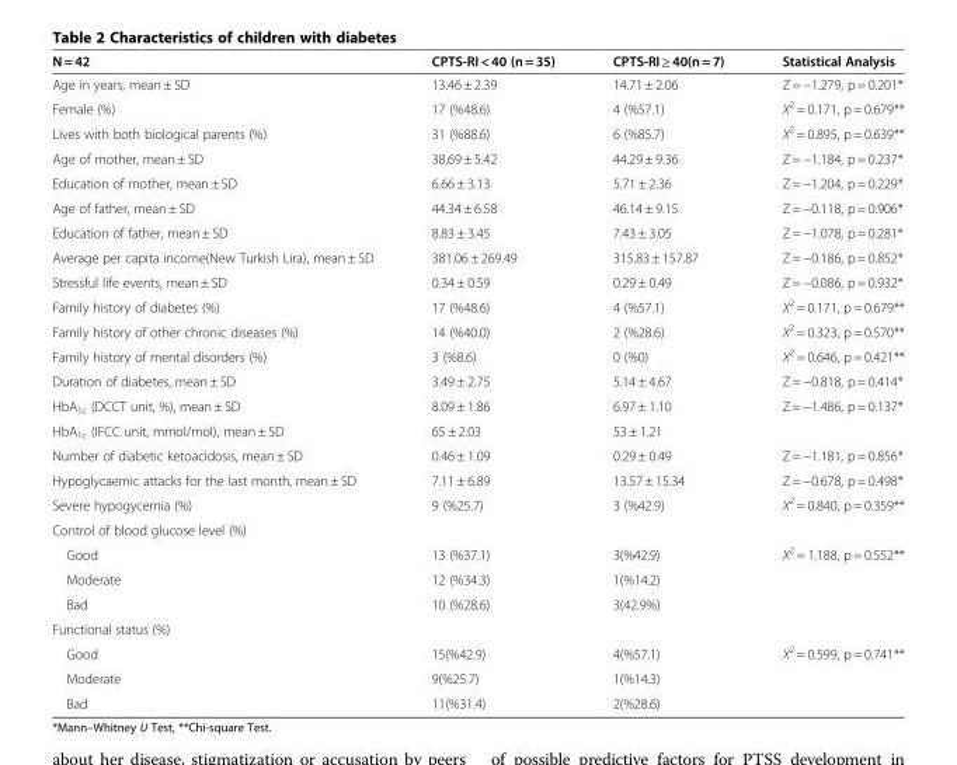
<table><thead><tr><td>N = 42</td><td>CPTS-RI &lt; 40 (n = 35)</td><td>CPTS-RI ≥ 40(n = 7)</td><td>Statistical Analysis</td></tr></thead><tbody><tr><td>Age in years, mean ± SD</td><td>13.46 ± 2.39</td><td>14.71 ± 2.06</td><td>Z = −1.279, p = 0.201*</td></tr><tr><td>Female (%)</td><td>17 (%48.6)</td><td>4 (%57.1)</td><td>X<sup>2</sup> = 0.171, p = 0.679**</td></tr><tr><td>Lives with both biological parents (%)</td><td>31 (%88.6)</td><td>6 (%85.7)</td><td>X<sup>2</sup> = 0.895, p = 0.639**</td></tr><tr><td>Age of mother, mean ± SD</td><td>38.69 ± 5.42</td><td>44.29 ± 9.36</td><td>Z = −1.184, p = 0.237*</td></tr><tr><td>Education of mother, mean ± SD</td><td>6.66 ± 3.13</td><td>5.71 ± 2.36</td><td>Z = −1.204, p = 0.229*</td></tr><tr><td>Age of father, mean ± SD</td><td>44.34 ± 6.58</td><td>46.14 ± 9.15</td><td>Z = −0.118, p = 0.906*</td></tr><tr><td>Education of father, mean ± SD</td><td>8.83 ± 3.45</td><td>7.43 ± 3.05</td><td>Z = −1.078, p = 0.281*</td></tr><tr><td>Average per capita income(New Turkish Lira), mean ± SD</td><td>381.06 ± 269.49</td><td>315.83 ± 157.87</td><td>Z = −0.186, p = 0.852*</td></tr><tr><td>Stressful life events, mean ± SD</td><td>0.34 ± 0.59</td><td>0.29 ± 0.49</td><td>Z = −0.086, p = 0.932*</td></tr><tr><td>Family history of diabetes (%)</td><td>17 (%48.6)</td><td>4 (%57.1)</td><td>X<sup>2</sup> = 0.171, p = 0.679**</td></tr><tr><td>Family history of other chronic diseases (%)</td><td>14 (%40.0)</td><td>2 (%28.6)</td><td>X<sup>2</sup> = 0.323, p = 0.570**</td></tr><tr><td>Family history of mental disorders (%)</td><td>3 (%8.6)</td><td>0 (%0)</td><td>X<sup>2</sup> = 0.646, p = 0.421**</td></tr><tr><td>Duration of diabetes, mean ± SD</td><td>3.49 ± 2.75</td><td>5.14 ± 4.67</td><td>Z = −0.818, p = 0.414*</td></tr><tr><td>HbA<sub>1c</sub> (DCCT unit, %), mean ± SD</td><td>8.09 ± 1.86</td><td>6.97 ± 1.10</td><td rowspan="2">Z = −1.486, p = 0.137*</td></tr><tr><td>HbA<sub>1c</sub> (IFCC unit, mmol/mol), mean ± SD</td><td>65 ± 2.03</td><td>53 ± 1.21</td></tr><tr><td>Number of diabetic ketoacidosis, mean ± SD</td><td>0.46 ± 1.09</td><td>0.29 ± 0.49</td><td>Z = −1.181, p = 0.856*</td></tr><tr><td>Hypoglycaemic attacks for the last month, mean ± SD</td><td>7.11 ± 6.89</td><td>13.57 ± 15.34</td><td>Z = −0.678, p = 0.498*</td></tr><tr><td>Severe hypogycemia (%)</td><td>9 (%25.7)</td><td>3 (%42.9)</td><td>X<sup>2</sup> = 0.840, p = 0.359**</td></tr><tr><td colspan="4">Control of blood glucose level (%)</td></tr><tr><td>Good</td><td>13 (%37.1)</td><td>3(%42.9)</td><td>X<sup>2</sup> = 1.188, p = 0.552**</td></tr><tr><td>Moderate</td><td>12 (%34.3)</td><td>1(%14.2)</td><td></td></tr><tr><td>Bad</td><td>10 (%28.6)</td><td>3(42.9%)</td><td></td></tr><tr><td colspan="4">Functional status (%)</td></tr><tr><td>Good</td><td>15(%42.9)</td><td>4(%57.1)</td><td>X<sup>2</sup> = 0.599, p = 0.741**</td></tr><tr><td>Moderate</td><td>9(%25.7)</td><td>1(%14.3)</td><td></td></tr><tr><td>Bad</td><td>11(%31.4)</td><td>2(%28.6)</td><td></td></tr></tbody></table>